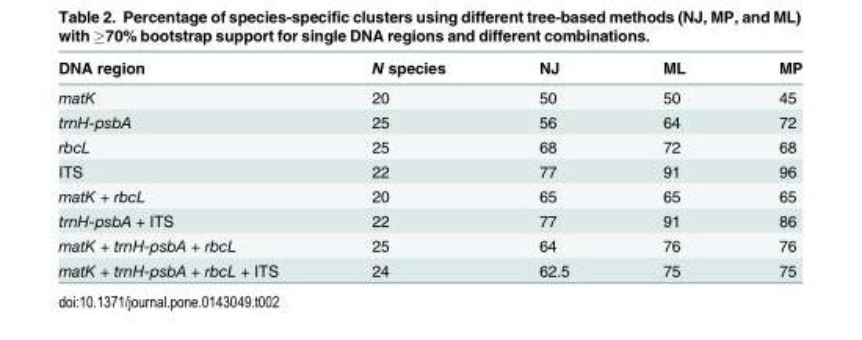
<table><thead><tr><td>DNA region</td><td>N species</td><td>NJ</td><td>ML</td><td>MP</td></tr></thead><tbody><tr><td>matK</td><td>20</td><td>50</td><td>50</td><td>45</td></tr><tr><td>trnH-psbA</td><td>25</td><td>56</td><td>64</td><td>72</td></tr><tr><td>rbcL</td><td>25</td><td>68</td><td>72</td><td>68</td></tr><tr><td>ITS</td><td>22</td><td>77</td><td>91</td><td>96</td></tr><tr><td>matK + rbcL</td><td>20</td><td>65</td><td>65</td><td>65</td></tr><tr><td>trnH-psbA + ITS</td><td>22</td><td>77</td><td>91</td><td>86</td></tr><tr><td>matK + trnH-psbA + rbcL</td><td>25</td><td>64</td><td>76</td><td>76</td></tr><tr><td>matK + trnH-psbA + rbcL + ITS</td><td>24</td><td>62.5</td><td>75</td><td>75</td></tr></tbody></table>